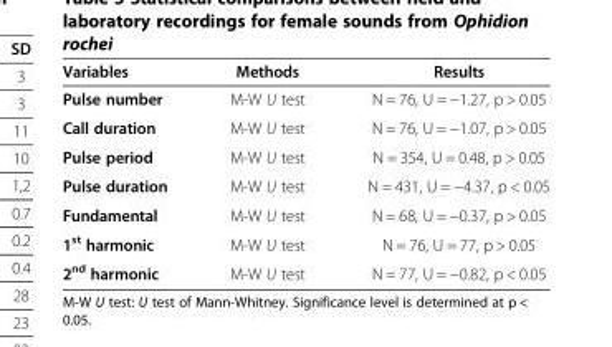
<table><thead><tr><td>Variables</td><td>Methods</td><td>Results</td></tr></thead><tbody><tr><td>Pulse number</td><td>M-W U test</td><td>N = 76, U = −1.27, p &gt; 0.05</td></tr><tr><td>Call duration</td><td>M-W U test</td><td>N = 76, U = −1.07, p &gt; 0.05</td></tr><tr><td>Pulse period</td><td>M-W U test</td><td>N = 354, U = 0.48, p &gt; 0.05</td></tr><tr><td>Pulse duration</td><td>M-W U test</td><td>N = 431, U = −4.37, p &lt; 0.05</td></tr><tr><td>Fundamental</td><td>M-W U test</td><td>N = 68, U = −0.37, p &gt; 0.05</td></tr><tr><td>1<sup>st</sup> harmonic</td><td>M-W U test</td><td>N = 76, U = 77, p &gt; 0.05</td></tr><tr><td>2<sup>nd</sup> harmonic</td><td>M-W U test</td><td>N = 77, U = −0.82, p &lt; 0.05</td></tr></tbody></table>